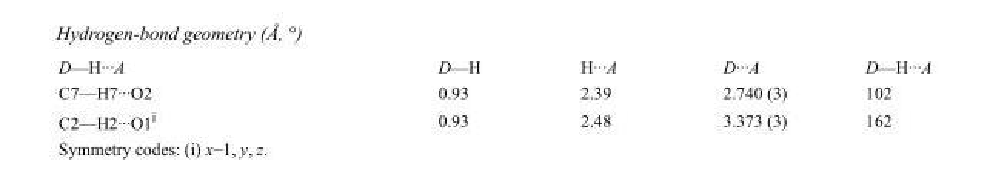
<table><tbody><tr><td>D—H···A</td><td>D—H</td><td>H···A</td><td>D···A</td><td>D—H···A</td></tr><tr><td>C7—H7···O2</td><td>0.93</td><td>2.39</td><td>2.740 (3)</td><td>102</td></tr><tr><td>C2—H2···O1<sup>i</sup></td><td>0.93</td><td>2.48</td><td>3.373 (3)</td><td>162</td></tr></tbody></table>